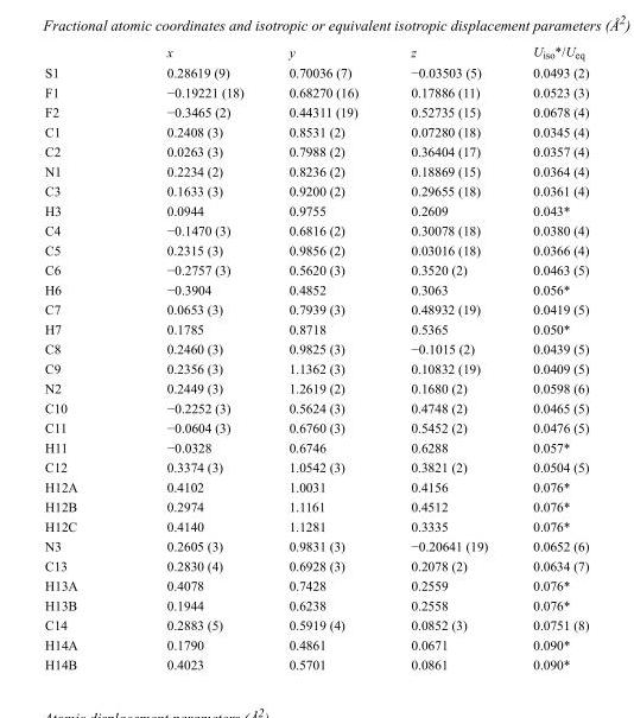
<table><thead><tr><td></td><td>x</td><td>y</td><td>z</td><td>U<sub>iso</sub>*/U<sub>eq</sub></td></tr></thead><tbody><tr><td>S1</td><td>0.28619 (9)</td><td>0.70036 (7)</td><td>−0.03503 (5)</td><td>0.0493 (2)</td></tr><tr><td>F1</td><td>−0.19221 (18)</td><td>0.68270 (16)</td><td>0.17886 (11)</td><td>0.0523 (3)</td></tr><tr><td>F2</td><td>−0.3465 (2)</td><td>0.44311 (19)</td><td>0.52735 (15)</td><td>0.0678 (4)</td></tr><tr><td>C1</td><td>0.2408 (3)</td><td>0.8531 (2)</td><td>0.07280 (18)</td><td>0.0345 (4)</td></tr><tr><td>C2</td><td>0.0263 (3)</td><td>0.7988 (2)</td><td>0.36404 (17)</td><td>0.0357 (4)</td></tr><tr><td>N1</td><td>0.2234 (2)</td><td>0.8236 (2)</td><td>0.18869 (15)</td><td>0.0364 (4)</td></tr><tr><td>C3</td><td>0.1633 (3)</td><td>0.9200 (2)</td><td>0.29655 (18)</td><td>0.0361 (4)</td></tr><tr><td>H3</td><td>0.0944</td><td>0.9755</td><td>0.2609</td><td>0.043*</td></tr><tr><td>C4</td><td>−0.1470 (3)</td><td>0.6816 (2)</td><td>0.30078 (18)</td><td>0.0380 (4)</td></tr><tr><td>C5</td><td>0.2315 (3)</td><td>0.9856 (2)</td><td>0.03016 (18)</td><td>0.0366 (4)</td></tr><tr><td>C6</td><td>−0.2757 (3)</td><td>0.5620 (3)</td><td>0.3520 (2)</td><td>0.0463 (5)</td></tr><tr><td>H6</td><td>−0.3904</td><td>0.4852</td><td>0.3063</td><td>0.056*</td></tr><tr><td>C7</td><td>0.0653 (3)</td><td>0.7939 (3)</td><td>0.48932 (19)</td><td>0.0419 (5)</td></tr><tr><td>H7</td><td>0.1785</td><td>0.8718</td><td>0.5365</td><td>0.050*</td></tr><tr><td>C8</td><td>0.2460 (3)</td><td>0.9825 (3)</td><td>−0.1015 (2)</td><td>0.0439 (5)</td></tr><tr><td>C9</td><td>0.2356 (3)</td><td>1.1362 (3)</td><td>0.10832 (19)</td><td>0.0409 (5)</td></tr><tr><td>N2</td><td>0.2449 (3)</td><td>1.2619 (2)</td><td>0.1680 (2)</td><td>0.0598 (6)</td></tr><tr><td>C10</td><td>−0.2252 (3)</td><td>0.5624 (3)</td><td>0.4748 (2)</td><td>0.0465 (5)</td></tr><tr><td>C11</td><td>−0.0604 (3)</td><td>0.6760 (3)</td><td>0.5452 (2)</td><td>0.0476 (5)</td></tr><tr><td>H11</td><td>−0.0328</td><td>0.6746</td><td>0.6288</td><td>0.057*</td></tr><tr><td>C12</td><td>0.3374 (3)</td><td>1.0542 (3)</td><td>0.3821 (2)</td><td>0.0504 (5)</td></tr><tr><td>H12A</td><td>0.4102</td><td>1.0031</td><td>0.4156</td><td>0.076*</td></tr><tr><td>H12B</td><td>0.2974</td><td>1.1161</td><td>0.4512</td><td>0.076*</td></tr><tr><td>H12C</td><td>0.4140</td><td>1.1281</td><td>0.3335</td><td>0.076*</td></tr><tr><td>N3</td><td>0.2605 (3)</td><td>0.9831 (3)</td><td>−0.20641 (19)</td><td>0.0652 (6)</td></tr><tr><td>C13</td><td>0.2830 (4)</td><td>0.6928 (3)</td><td>0.2078 (2)</td><td>0.0634 (7)</td></tr><tr><td>H13A</td><td>0.4078</td><td>0.7428</td><td>0.2559</td><td>0.076*</td></tr><tr><td>H13B</td><td>0.1944</td><td>0.6238</td><td>0.2558</td><td>0.076*</td></tr><tr><td>C14</td><td>0.2883 (5)</td><td>0.5919 (4)</td><td>0.0852 (3)</td><td>0.0751 (8)</td></tr><tr><td>H14A</td><td>0.1790</td><td>0.4861</td><td>0.0671</td><td>0.090*</td></tr><tr><td>H14B</td><td>0.4023</td><td>0.5701</td><td>0.0861</td><td>0.090*</td></tr></tbody></table>